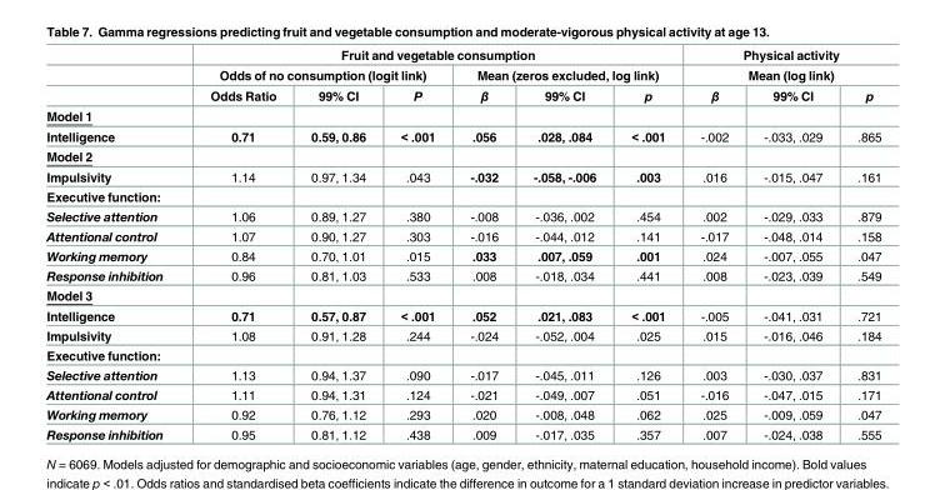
<table><thead><tr><td rowspan="3"></td><td colspan="6">Fruit and vegetable consumption</td><td rowspan="2" colspan="3">Physical activity Mean (log link)</td></tr><tr><td colspan="3">Odds of no consumption (logit link)</td><td colspan="3">Mean (zeros excluded, log link)</td></tr><tr><td>Odds Ratio</td><td>99% CI</td><td>P</td><td>β</td><td>99% CI</td><td>p</td><td>β</td><td>99% CI</td><td>p</td></tr></thead><tbody><tr><td colspan="10">Model 1</td></tr><tr><td>Intelligence</td><td>0.71</td><td>0.59, 0.86</td><td>&lt; .001</td><td>.056</td><td>.028, .084</td><td>&lt; .001</td><td>-.002</td><td>-.033, .029</td><td>.865</td></tr><tr><td colspan="10">Model 2</td></tr><tr><td>Impulsivity</td><td>1.14</td><td>0.97, 1.34</td><td>.043</td><td>-.032</td><td>-.058, -.006</td><td>.003</td><td>.016</td><td>-.015, .047</td><td>.161</td></tr><tr><td colspan="10">Executive function:</td></tr><tr><td>Selective attention</td><td>1.06</td><td>0.89, 1.27</td><td>.380</td><td>-.008</td><td>-.036, .002</td><td>.454</td><td>.002</td><td>-.029, .033</td><td>.879</td></tr><tr><td>Attentional control</td><td>1.07</td><td>0.90, 1.27</td><td>.303</td><td>-.016</td><td>-.044, .012</td><td>.141</td><td>-.017</td><td>-.048, .014</td><td>.158</td></tr><tr><td>Working memory</td><td>0.84</td><td>0.70, 1.01</td><td>.015</td><td>.033</td><td>.007, .059</td><td>.001</td><td>.024</td><td>-.007, .055</td><td>.047</td></tr><tr><td>Response inhibition</td><td>0.96</td><td>0.81, 1.03</td><td>.533</td><td>.008</td><td>-.018, .034</td><td>.441</td><td>.008</td><td>-.023, .039</td><td>.549</td></tr><tr><td colspan="10">Model 3</td></tr><tr><td>Intelligence</td><td>0.71</td><td>0.57, 0.87</td><td>&lt; .001</td><td>.052</td><td>.021, .083</td><td>&lt; .001</td><td>-.005</td><td>-.041, .031</td><td>.721</td></tr><tr><td>Impulsivity</td><td>1.08</td><td>0.91, 1.28</td><td>.244</td><td>-.024</td><td>-.052, .004</td><td>.025</td><td>.015</td><td>-.016, .046</td><td>.184</td></tr><tr><td colspan="10">Executive function:</td></tr><tr><td>Selective attention</td><td>1.13</td><td>0.94, 1.37</td><td>.090</td><td>-.017</td><td>-.045, .011</td><td>.126</td><td>.003</td><td>-.030, .037</td><td>.831</td></tr><tr><td>Attentional control</td><td>1.11</td><td>0.94, 1.31</td><td>.124</td><td>-.021</td><td>-.049, .007</td><td>.051</td><td>-.016</td><td>-.047, .015</td><td>.171</td></tr><tr><td>Working memory</td><td>0.92</td><td>0.76, 1.12</td><td>.293</td><td>.020</td><td>-.008, .048</td><td>.062</td><td>.025</td><td>-.009, .059</td><td>.047</td></tr><tr><td>Response inhibition</td><td>0.95</td><td>0.81, 1.12</td><td>.438</td><td>.009</td><td>-.017, .035</td><td>.357</td><td>.007</td><td>-.024, .038</td><td>.555</td></tr></tbody></table>